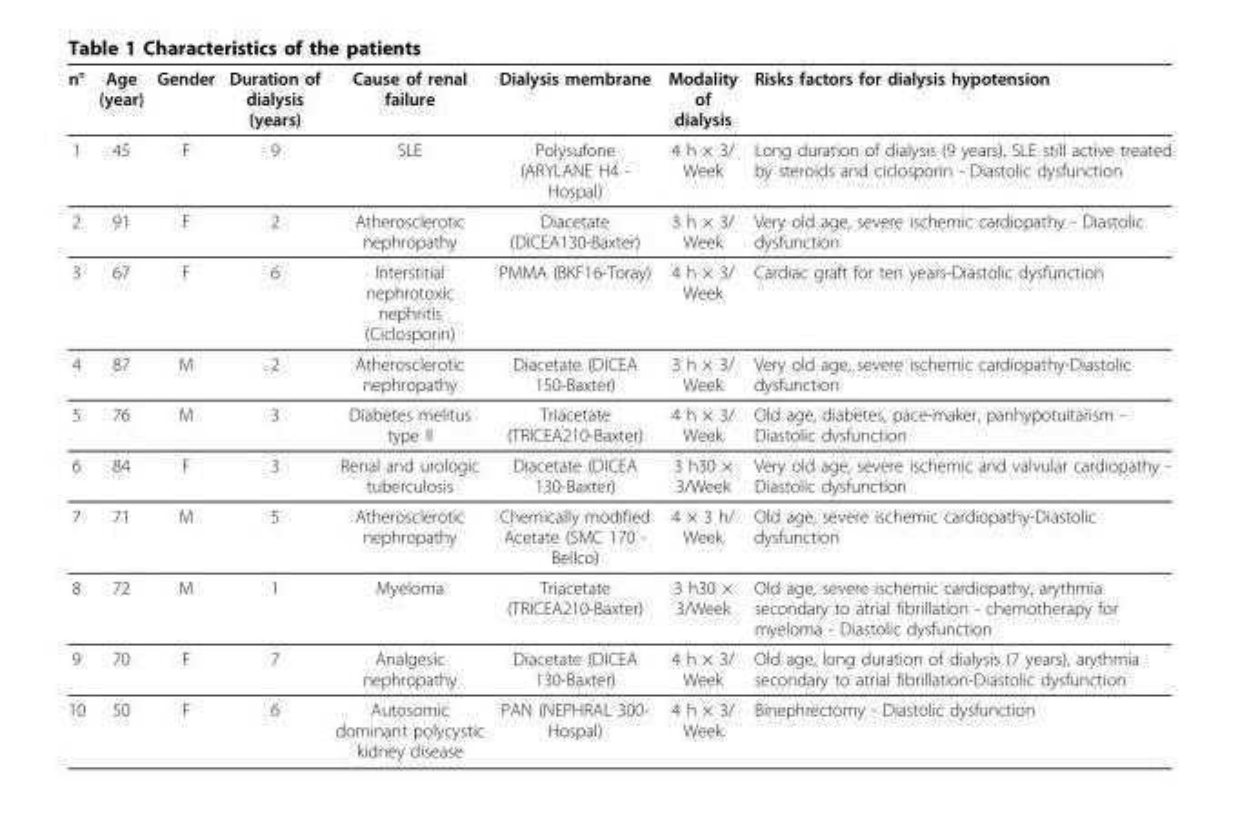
<table><thead><tr><td>n°</td><td>Age (year)</td><td>Gender</td><td>Duration of dialysis (years)</td><td>Cause of renal failure</td><td>Dialysis membrane</td><td>Modality of dialysis</td><td>Risks factors for dialysis hypotension</td></tr></thead><tbody><tr><td>1</td><td>45</td><td>F</td><td>9</td><td>SLE</td><td>Polysufone (ARYLANE H4 - Hospal)</td><td>4 h × 3/ Week</td><td>Long duration of dialysis (9 years), SLE still active treated by steroïds and ciclosporin - Diastolic dysfunction</td></tr><tr><td>2</td><td>91</td><td>F</td><td>2</td><td>Atherosclerotic nephropathy</td><td>Diacetate (DICEA130-Baxter)</td><td>3 h × 3/ Week</td><td>Very old age, severe ischemic cardiopathy - Diastolic dysfunction</td></tr><tr><td>3</td><td>67</td><td>F</td><td>6</td><td>Interstitial nephrotoxic nephritis (Ciclosporin)</td><td>PMMA (BKF16-Toray)</td><td>4 h × 3/ Week</td><td>Cardiac graft for ten years-Diastolic dysfunction</td></tr><tr><td>4</td><td>87</td><td>M</td><td>2</td><td>Atherosclerotic nephropathy</td><td>Diacetate (DICEA 150-Baxter)</td><td>3 h × 3/ Week</td><td>Very old age, severe ischemic cardiopathy-Diastolic dysfunction</td></tr><tr><td>5</td><td>76</td><td>M</td><td>3</td><td>Diabetes melitus type II</td><td>Triacetate (TRICEA210-Baxter)</td><td>4 h × 3/ Week</td><td>Old age, diabetes, pace-maker, panhypotuitarism - Diastolic dvsfunction</td></tr><tr><td>6</td><td>84</td><td>F</td><td>3</td><td>Renal and urologic tuberculosis</td><td>Diacetate (DICEA 130-Baxter)</td><td>3 h30 × 3/Week</td><td>Very old age, severe ischemic and valvular cardiopathy - Diastolic dysfunction</td></tr><tr><td>7</td><td>71</td><td>M</td><td>5</td><td>Atherosclerotic nephropathy</td><td>Chemically modified Acetate (SMC 170 - Bellco)</td><td>4 × 3 h/ Week</td><td>Old age, severe ischemic cardiopathy-Diastolic dysfunction</td></tr><tr><td>8</td><td>72</td><td>M</td><td>1</td><td>Myeloma</td><td>Triacetate (TRICEA210-Baxter)</td><td>3 h30 × 3/Week</td><td>Old age, severe ischemic cardiopathy, arythmia secondary to atrial fibrillation - chemotherapy for myeloma - Diastolic dysfunction</td></tr><tr><td>9</td><td>70</td><td>F</td><td>7</td><td>Analgesic nephropathy</td><td>Diacetate (DICEA 130-Baxter)</td><td>4 h × 3/ Week</td><td>Old age, long duration of dialysis (7 years), arythmia secondary to atrial fibrillation-Diastolic dysfunction</td></tr><tr><td>10</td><td>50</td><td>F</td><td>6</td><td>Autosomic dominant polycystic kidney disease</td><td>PAN (NEPHRAL 300- Hospal)</td><td>4 h × 3/ Week</td><td>Binephrectomy - Diastolic dysfunction</td></tr></tbody></table>